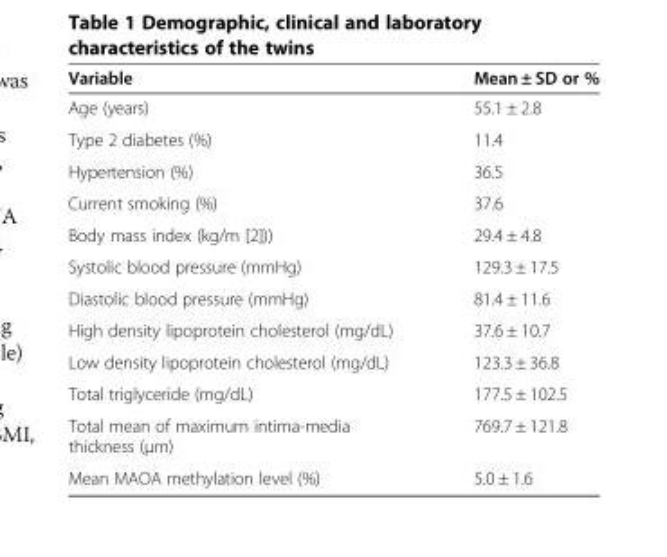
<table><thead><tr><td>Variable</td><td>Mean ± SD or %</td></tr></thead><tbody><tr><td>Age (years)</td><td>55.1 ± 2.8</td></tr><tr><td>Type 2 diabetes (%)</td><td>11.4</td></tr><tr><td>Hypertension (%)</td><td>36.5</td></tr><tr><td>Current smoking (%)</td><td>37.6</td></tr><tr><td>Body mass index (kg/m [2]))</td><td>29.4 ± 4.8</td></tr><tr><td>Systolic blood pressure (mmHg)</td><td>129.3 ± 17.5</td></tr><tr><td>Diastolic blood pressure (mmHg)</td><td>81.4 ± 11.6</td></tr><tr><td>High density lipoprotein cholesterol (mg/dL)</td><td>37.6 ± 10.7</td></tr><tr><td>Low density lipoprotein cholesterol (mg/dL)</td><td>123.3 ± 36.8</td></tr><tr><td>Total triglyceride (mg/dL)</td><td>177.5 ± 102.5</td></tr><tr><td>Total mean of maximum intima-media thickness (μm)</td><td>769.7 ± 121.8</td></tr><tr><td>Mean MAOA methylation level (%)</td><td>5.0 ± 1.6</td></tr></tbody></table>